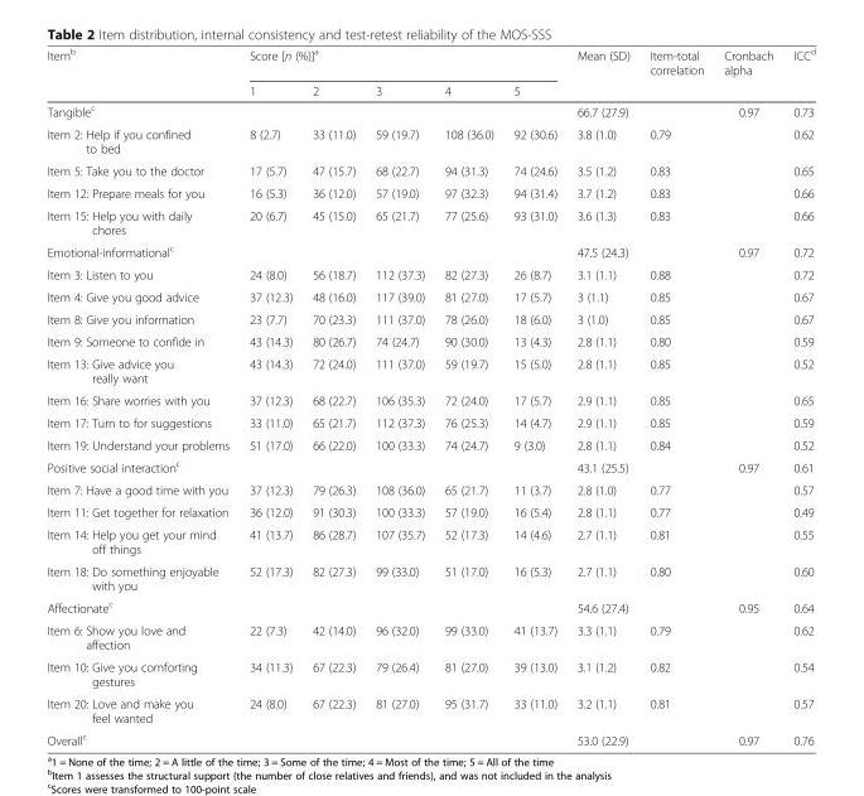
<table><thead><tr><td rowspan="2">Item<sup>b</sup></td><td colspan="5">Score [n (%)]<sup>a</sup></td><td rowspan="2">Mean (SD)</td><td rowspan="2">Item-total correlation</td><td rowspan="2">Cronbach alpha</td><td rowspan="2">ICC<sup>d</sup></td></tr><tr><td>1</td><td>2</td><td>3</td><td>4</td><td>5</td></tr></thead><tbody><tr><td colspan="6">Tangible<sup>c</sup></td><td>66.7 (27.9)</td><td></td><td>0.97</td><td>0.73</td></tr><tr><td>Item 2: Help if you confined to bed</td><td>8 (2.7)</td><td>33 (11.0)</td><td>59 (19.7)</td><td>108 (36.0)</td><td>92 (30.6)</td><td>3.8 (1.0)</td><td>0.79</td><td></td><td>0.62</td></tr><tr><td>Item 5: Take you to the doctor</td><td>17 (5.7)</td><td>47 (15.7)</td><td>68 (22.7)</td><td>94 (31.3)</td><td>74 (24.6)</td><td>3.5 (1.2)</td><td>0.83</td><td></td><td>0.65</td></tr><tr><td>Item 12: Prepare meals for you</td><td>16 (5.3)</td><td>36 (12.0)</td><td>57 (19.0)</td><td>97 (32.3)</td><td>94 (31.4)</td><td>3.7 (1.2)</td><td>0.83</td><td></td><td>0.66</td></tr><tr><td>Item 15: Help you with daily chores</td><td>20 (6.7)</td><td>45 (15.0)</td><td>65 (21.7)</td><td>77 (25.6)</td><td>93 (31.0)</td><td>3.6 (1.3)</td><td>0.83</td><td></td><td>0.66</td></tr><tr><td colspan="6">Emotional-informational<sup>c</sup></td><td>47.5 (24.3)</td><td></td><td>0.97</td><td>0.72</td></tr><tr><td>Item 3: Listen to you</td><td>24 (8.0)</td><td>56 (18.7)</td><td>112 (37.3)</td><td>82 (27.3)</td><td>26 (8.7)</td><td>3.1 (1.1)</td><td>0.88</td><td></td><td>0.72</td></tr><tr><td>Item 4: Give you good advice</td><td>37 (12.3)</td><td>48 (16.0)</td><td>117 (39.0)</td><td>81 (27.0)</td><td>17 (5.7)</td><td>3 (1.1)</td><td>0.85</td><td></td><td>0.67</td></tr><tr><td>Item 8: Give you information</td><td>23 (7.7)</td><td>70 (23.3)</td><td>111 (37.0)</td><td>78 (26.0)</td><td>18 (6.0)</td><td>3 (1.0)</td><td>0.85</td><td></td><td>0.67</td></tr><tr><td>Item 9: Someone to confide in</td><td>43 (14.3)</td><td>80 (26.7)</td><td>74 (24.7)</td><td>90 (30.0)</td><td>13 (4.3)</td><td>2.8 (1.1)</td><td>0.80</td><td></td><td>0.59</td></tr><tr><td>Item 13: Give advice you really want</td><td>43 (14.3)</td><td>72 (24.0)</td><td>111 (37.0)</td><td>59 (19.7)</td><td>15 (5.0)</td><td>2.8 (1.1)</td><td>0.85</td><td></td><td>0.52</td></tr><tr><td>Item 16: Share worries with you</td><td>37 (12.3)</td><td>68 (22.7)</td><td>106 (35.3)</td><td>72 (24.0)</td><td>17 (5.7)</td><td>2.9 (1.1)</td><td>0.85</td><td></td><td>0.65</td></tr><tr><td>Item 17: Turn to for suggestions</td><td>33 (11.0)</td><td>65 (21.7)</td><td>112 (37.3)</td><td>76 (25.3)</td><td>14 (4.7)</td><td>2.9 (1.1)</td><td>0.85</td><td></td><td>0.59</td></tr><tr><td>Item 19: Understand your problems</td><td>51 (17.0)</td><td>66 (22.0)</td><td>100 (33.3)</td><td>74 (24.7)</td><td>9 (3.0)</td><td>2.8 (1.1)</td><td>0.84</td><td></td><td>0.52</td></tr><tr><td colspan="6">Positive social interaction<sup>c</sup></td><td>43.1 (25.5)</td><td></td><td>0.97</td><td>0.61</td></tr><tr><td>Item 7: Have a good time with you</td><td>37 (12.3)</td><td>79 (26.3)</td><td>108 (36.0)</td><td>65 (21.7)</td><td>11 (3.7)</td><td>2.8 (1.0)</td><td>0.77</td><td></td><td>0.57</td></tr><tr><td>Item 11: Get together for relaxation</td><td>36 (12.0)</td><td>91 (30.3)</td><td>100 (33.3)</td><td>57 (19.0)</td><td>16 (5.4)</td><td>2.8 (1.1)</td><td>0.77</td><td></td><td>0.49</td></tr><tr><td>Item 14: Help you get your mind off things</td><td>41 (13.7)</td><td>86 (28.7)</td><td>107 (35.7)</td><td>52 (17.3)</td><td>14 (4.6)</td><td>2.7 (1.1)</td><td>0.81</td><td></td><td>0.55</td></tr><tr><td>Item 18: Do something enjoyable with you</td><td>52 (17.3)</td><td>82 (27.3)</td><td>99 (33.0)</td><td>51 (17.0)</td><td>16 (5.3)</td><td>2.7 (1.1)</td><td>0.80</td><td></td><td>0.60</td></tr><tr><td colspan="6">Affectionate<sup>c</sup></td><td>54.6 (27.4)</td><td></td><td>0.95</td><td>0.64</td></tr><tr><td>Item 6: Show you love and affection</td><td>22 (7.3)</td><td>42 (14.0)</td><td>96 (32.0)</td><td>99 (33.0)</td><td>41 (13.7)</td><td>3.3 (1.1)</td><td>0.79</td><td></td><td>0.62</td></tr><tr><td>Item 10: Give you comforting gestures</td><td>34 (11.3)</td><td>67 (22.3)</td><td>79 (26.4)</td><td>81 (27.0)</td><td>39 (13.0)</td><td>3.1 (1.2)</td><td>0.82</td><td></td><td>0.54</td></tr><tr><td>Item 20: Love and make you feel wanted</td><td>24 (8.0)</td><td>67 (22.3)</td><td>81 (27.0)</td><td>95 (31.7)</td><td>33 (11.0)</td><td>3.2 (1.1)</td><td>0.81</td><td></td><td>0.57</td></tr><tr><td colspan="6">Overall<sup>c</sup></td><td>53.0 (22.9)</td><td></td><td>0.97</td><td>0.76</td></tr></tbody></table>